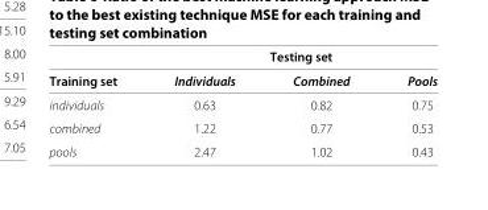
<table><thead><tr><td rowspan="2">Training set</td><td colspan="3">Testing set</td></tr><tr><td>Individuals</td><td>Combined</td><td>Pools</td></tr></thead><tbody><tr><td>individuals</td><td>0.63</td><td>0.82</td><td>0.75</td></tr><tr><td>combined</td><td>1.22</td><td>0.77</td><td>0.53</td></tr><tr><td>pools</td><td>2.47</td><td>1.02</td><td>0.43</td></tr></tbody></table>